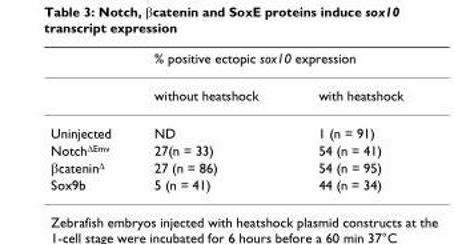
<table><thead><tr><td rowspan="2"></td><td colspan="2">% positive ectopic sox10 expression</td></tr><tr><td>without heatshock</td><td>with heatshock</td></tr></thead><tbody><tr><td>Uninjected</td><td>ND</td><td>1 (n = 91)</td></tr><tr><td>Notch<sup>ΔEmv</sup></td><td>27(n = 33)</td><td>54 (n = 41)</td></tr><tr><td>βcatenin<sup>Δ</sup></td><td>27 (n = 86)</td><td>54 (n = 95)</td></tr><tr><td>Sox9b</td><td>5 (n = 41)</td><td>44 (n = 34)</td></tr></tbody></table>